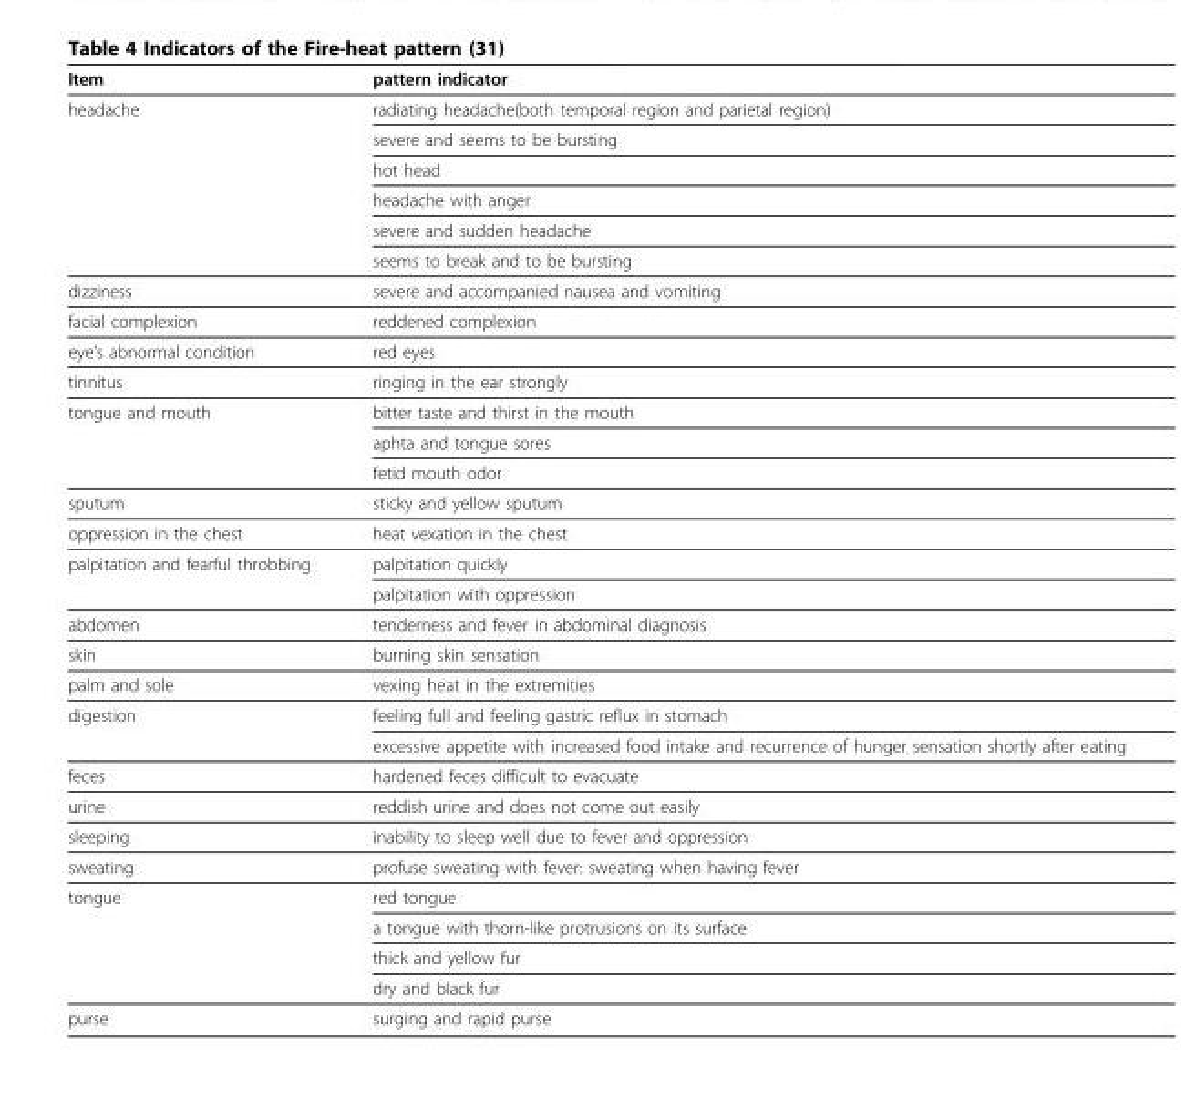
<table><thead><tr><td>Item</td><td>pattern indicator</td></tr></thead><tbody><tr><td rowspan="6">headache</td><td>radiating headache(both temporal region and parietal region)</td></tr><tr><td>severe and seems to be bursting</td></tr><tr><td>hot head</td></tr><tr><td>headache with anger</td></tr><tr><td>severe and sudden headache</td></tr><tr><td>seems to break and to be bursting</td></tr><tr><td>dizziness</td><td>severe and accompanied nausea and vomiting</td></tr><tr><td>facial complexion</td><td>reddened complexion</td></tr><tr><td>eye’s abnormal condition</td><td>red eyes</td></tr><tr><td>tinnitus</td><td>ringing in the ear strongly</td></tr><tr><td rowspan="3">tongue and mouth</td><td>bitter taste and thirst in the mouth</td></tr><tr><td>aphta and tongue sores</td></tr><tr><td>fetid mouth odor</td></tr><tr><td>sputum</td><td>sticky and yellow sputum</td></tr><tr><td>oppression in the chest</td><td>heat vexation in the chest</td></tr><tr><td rowspan="2">palpitation and fearful throbbing</td><td>palpitation quickly</td></tr><tr><td>palpitation with oppression</td></tr><tr><td>abdomen</td><td>tenderness and fever in abdominal diagnosis</td></tr><tr><td>skin</td><td>burning skin sensation</td></tr><tr><td>palm and sole</td><td>vexing heat in the extremities</td></tr><tr><td rowspan="2">digestion</td><td>feeling full and feeling gastric reflux in stomach</td></tr><tr><td>excessive appetite with increased food intake and recurrence of hunger sensation shortly after eating</td></tr><tr><td>feces</td><td>hardened feces difficult to evacuate</td></tr><tr><td>urine</td><td>reddish urine and does not come out easily</td></tr><tr><td>sleeping</td><td>inability to sleep well due to fever and oppression</td></tr><tr><td>sweating</td><td>profuse sweating with fever: sweating when having fever</td></tr><tr><td rowspan="4">tongue</td><td>red tongue</td></tr><tr><td>a tongue with thorn-like protrusions on its surface</td></tr><tr><td>thick and yellow fur</td></tr><tr><td>dry and black fur</td></tr><tr><td>purse</td><td>surging and rapid purse</td></tr></tbody></table>